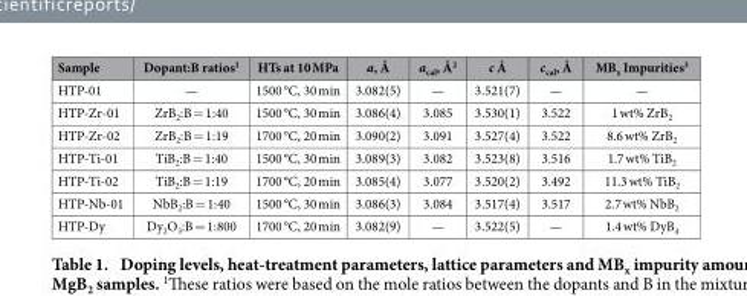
<table><thead><tr><td>Sample</td><td>Dopant:B ratios<sup>1</sup></td><td>HTs at 10 MPa</td><td>a, Å</td><td>a<sub>cal</sub>, Å<sup>2</sup></td><td>c Å</td><td>c<sub>cal</sub>, Å</td><td>MB<sub>x</sub> Impurities<sup>3</sup></td></tr></thead><tbody><tr><td>HTP-01</td><td>—</td><td>1500 °C, 30 min</td><td>3.082(5)</td><td>—</td><td>3.521(7)</td><td>—</td><td>—</td></tr><tr><td>HTP-Zr-01</td><td>ZrB<sub>2</sub>:B = 1:40</td><td>1500 °C, 30 min</td><td>3.086(4)</td><td>3.085</td><td>3.530(1)</td><td>3.522</td><td>1 wt% ZrB<sub>2</sub></td></tr><tr><td>HTP-Zr-02</td><td>ZrB<sub>2</sub>:B = 1:19</td><td>1700 °C, 20 min</td><td>3.090(2)</td><td>3.091</td><td>3.527(4)</td><td>3.522</td><td>8.6 wt% ZrB<sub>2</sub></td></tr><tr><td>HTP-Ti-01</td><td>TiB<sub>2</sub>:B = 1:40</td><td>1500 °C, 30 min</td><td>3.089(3)</td><td>3.082</td><td>3.523(8)</td><td>3.516</td><td>1.7 wt% TiB<sub>2</sub></td></tr><tr><td>HTP-Ti-02</td><td>TiB<sub>2</sub>:B = 1:19</td><td>1700 °C, 20 min</td><td>3.085(4)</td><td>3.077</td><td>3.520(2)</td><td>3.492</td><td>11.3 wt% TiB<sub>2</sub></td></tr><tr><td>HTP-Nb-01</td><td>NbB<sub>2</sub>:B = 1:40</td><td>1500 °C, 30 min</td><td>3.086(3)</td><td>3.084</td><td>3.517(4)</td><td>3.517</td><td>2.7 wt% NbB<sub>2</sub></td></tr><tr><td>HTP-Dy</td><td>Dy<sub>2</sub>O<sub>3</sub>:B = 1:800</td><td>1700 °C, 20 min</td><td>3.082(9)</td><td>—</td><td>3.522(5)</td><td>—</td><td>1.4 wt% DyB<sub>4</sub></td></tr></tbody></table>